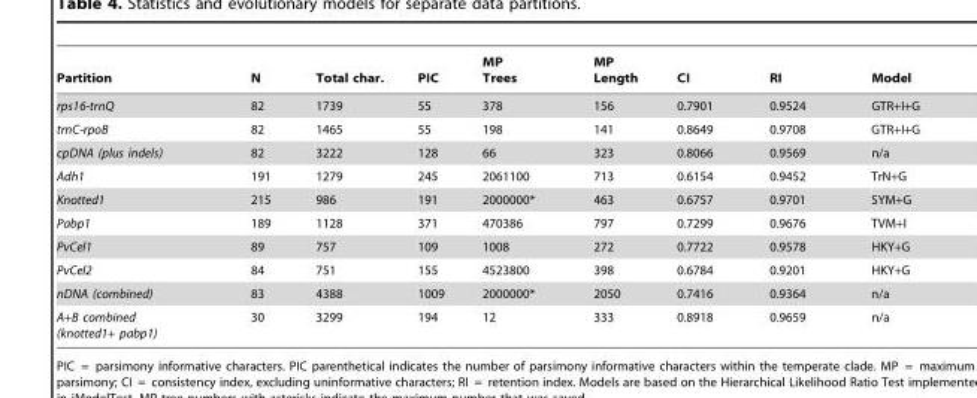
<table><thead><tr><td>Partition</td><td>N</td><td>Total char.</td><td>PIC</td><td>MP Trees</td><td>MP Length</td><td>CI</td><td>RI</td><td>Model</td></tr></thead><tbody><tr><td>rps16-trnQ</td><td>82</td><td>1739</td><td>55</td><td>378</td><td>156</td><td>0.7901</td><td>0.9524</td><td>GTR+I+G</td></tr><tr><td>trnC-rpoB</td><td>82</td><td>1465</td><td>55</td><td>198</td><td>141</td><td>0.8649</td><td>0.9708</td><td>GTR+I+G</td></tr><tr><td>cpDNA (plus indels)</td><td>82</td><td>3222</td><td>128</td><td>66</td><td>323</td><td>0.8066</td><td>0.9569</td><td>n/a</td></tr><tr><td>Adh1</td><td>191</td><td>1279</td><td>245</td><td>2061100</td><td>713</td><td>0.6154</td><td>0.9452</td><td>TrN+G</td></tr><tr><td>Knotted1</td><td>215</td><td>986</td><td>191</td><td>2000000*</td><td>463</td><td>0.6757</td><td>0.9701</td><td>SYM+G</td></tr><tr><td>Pabp1</td><td>189</td><td>1128</td><td>371</td><td>470386</td><td>797</td><td>0.7299</td><td>0.9676</td><td>TVM+I</td></tr><tr><td>PvCel1</td><td>89</td><td>757</td><td>109</td><td>1008</td><td>272</td><td>0.7722</td><td>0.9578</td><td>HKY+G</td></tr><tr><td>PvCel2</td><td>84</td><td>751</td><td>155</td><td>4523800</td><td>398</td><td>0.6784</td><td>0.9201</td><td>HKY+G</td></tr><tr><td>nDNA (combined)</td><td>83</td><td>4388</td><td>1009</td><td>2000000*</td><td>2050</td><td>0.7416</td><td>0.9364</td><td>n/a</td></tr><tr><td>A+B combined (knotted1+ pabp1)</td><td>30</td><td>3299</td><td>194</td><td>12</td><td>333</td><td>0.8918</td><td>0.9659</td><td>n/a</td></tr></tbody></table>